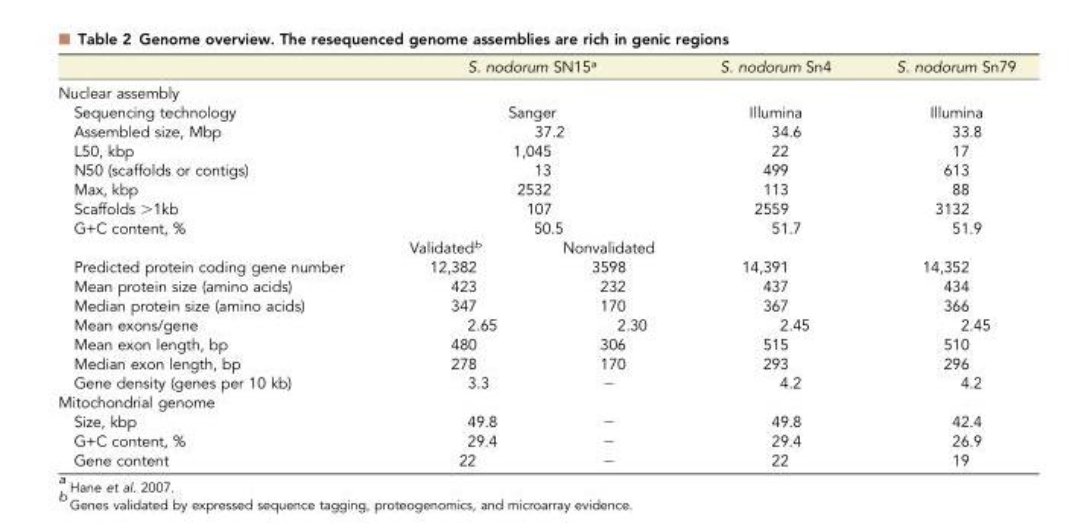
<table><thead><tr><td></td><td colspan="2">S. nodorum SN15<sup>a</sup></td><td>S. nodorum Sn4</td><td>S. nodorum Sn79</td></tr></thead><tbody><tr><td colspan="5">Nuclear assembly</td></tr><tr><td>Sequencing technology</td><td colspan="2">Sanger</td><td>Illumina</td><td>Illumina</td></tr><tr><td>Assembled size, Mbp</td><td colspan="2">37.2</td><td>34.6</td><td>33.8</td></tr><tr><td>L50, kbp</td><td colspan="2">1,045</td><td>22</td><td>17</td></tr><tr><td>N50 (scaffolds or contigs)</td><td colspan="2">13</td><td>499</td><td>613</td></tr><tr><td>Max, kbp</td><td colspan="2">2532</td><td>113</td><td>88</td></tr><tr><td>Scaffolds &gt;1kb</td><td colspan="2">107</td><td>2559</td><td>3132</td></tr><tr><td rowspan="2">G+C content, %</td><td colspan="2">50.5</td><td>51.7</td><td>51.9</td></tr><tr><td>Validated<sup>b</sup></td><td>Nonvalidated</td><td></td><td></td></tr><tr><td>Predicted protein coding gene number</td><td>12,382</td><td>3598</td><td>14,391</td><td>14,352</td></tr><tr><td>Mean protein size (amino acids)</td><td>423</td><td>232</td><td>437</td><td>434</td></tr><tr><td>Median protein size (amino acids)</td><td>347</td><td>170</td><td>367</td><td>366</td></tr><tr><td>Mean exons/gene</td><td>2.65</td><td>2.30</td><td>2.45</td><td>2.45</td></tr><tr><td>Mean exon length, bp</td><td>480</td><td>306</td><td>515</td><td>510</td></tr><tr><td>Median exon length, bp</td><td>278</td><td>170</td><td>293</td><td>296</td></tr><tr><td>Gene density (genes per 10 kb)</td><td>3.3</td><td>−</td><td>4.2</td><td>4.2</td></tr><tr><td colspan="5">Mitochondrial genome</td></tr><tr><td>Size, kbp</td><td>49.8</td><td>−</td><td>49.8</td><td>42.4</td></tr><tr><td>G+C content, %</td><td>29.4</td><td>−</td><td>29.4</td><td>26.9</td></tr><tr><td>Gene content</td><td>22</td><td>−</td><td>22</td><td>19</td></tr></tbody></table>